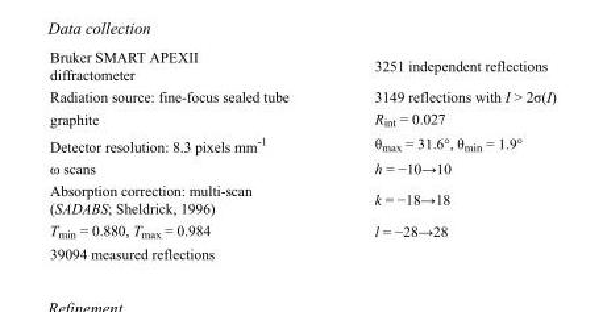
<table><tbody><tr><td>Bruker SMART APEXII diffractometer</td><td>3251 independent reflections</td></tr><tr><td>Radiation source: fine-focus sealed tube</td><td>3149 reflections with I &gt; 2σ(I)</td></tr><tr><td>graphite</td><td>R<sub>int</sub> = 0.027</td></tr><tr><td>Detector resolution: 8.3 pixels mm<sup>-1</sup></td><td>θ<sub>max</sub> = 31.6°, θ<sub>min</sub> = 1.9°</td></tr><tr><td>ω scans</td><td>h = −10→10</td></tr><tr><td>Absorption correction: multi-scan (SADABS; Sheldrick, 1996)</td><td>k = −18→18</td></tr><tr><td>T<sub>min</sub> = 0.880, T<sub>max</sub> = 0.984</td><td>l = −28→28</td></tr><tr><td>39094 measured reflections</td><td></td></tr></tbody></table>